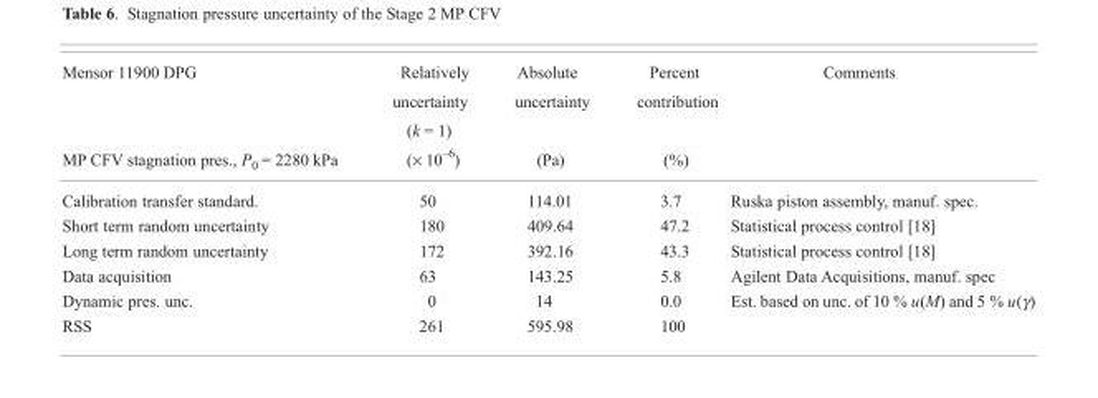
<table><thead><tr><td rowspan="2">Mensor 11900 DPG MP CFV stagnation pres., P<sub>0</sub> = 2280 kPa</td><td rowspan="2">Relatively uncertainty (k = 1) (× 10<sup>–6</sup>)</td><td rowspan="2">Absolute uncertainty (Pa)</td><td rowspan="2">Percent contribution (%)</td><td rowspan="2">Comments</td></tr><tr></tr></thead><tbody><tr><td>Calibration transfer standard.</td><td>50</td><td>114.01</td><td>3.7</td><td>Ruska piston assembly, manuf. spec.</td></tr><tr><td>Short term random uncertainty</td><td>180</td><td>409.64</td><td>47.2</td><td>Statistical process control [18]</td></tr><tr><td>Long term random uncertainty</td><td>172</td><td>392.16</td><td>43.3</td><td>Statistical process control [18]</td></tr><tr><td>Data acquisition</td><td>63</td><td>143.25</td><td>5.8</td><td>Agilent Data Acquisitions, manuf. spec</td></tr><tr><td>Dynamic pres. unc.</td><td>0</td><td>14</td><td>0.0</td><td>Est. based on unc. of 10 % u(M) and 5 % u(γ)</td></tr><tr><td>RSS</td><td>261</td><td>595.98</td><td>100</td><td></td></tr></tbody></table>